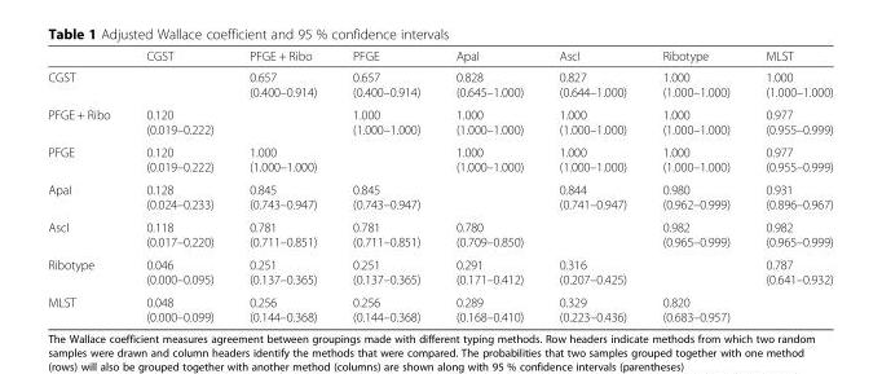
<table><thead><tr><td></td><td>CGST</td><td>PFGE + Ribo</td><td>PFGE</td><td>ApaI</td><td>AscI</td><td>Ribotype</td><td>MLST</td></tr></thead><tbody><tr><td>CGST</td><td></td><td>0.657 (0.400–0.914)</td><td>0.657 (0.400–0.914)</td><td>0.828 (0.645–1.000)</td><td>0.827 (0.644–1.000)</td><td>1.000 (1.000–1.000)</td><td>1.000 (1.000–1.000)</td></tr><tr><td>PFGE + Ribo</td><td>0.120 (0.019–0.222)</td><td></td><td>1.000 (1.000–1.000)</td><td>1.000 (1.000–1.000)</td><td>1.000 (1.000–1.000)</td><td>1.000 (1.000–1.000)</td><td>0.977 (0.955–0.999)</td></tr><tr><td>PFGE</td><td>0.120 (0.019–0.222)</td><td>1.000 (1.000–1.000)</td><td></td><td>1.000 (1.000–1.000)</td><td>1.000 (1.000–1.000)</td><td>1.000 (1.000–1.000)</td><td>0.977 (0.955–0.999)</td></tr><tr><td>ApaI</td><td>0.128 (0.024–0.233)</td><td>0.845 (0.743–0.947)</td><td>0.845 (0.743–0.947)</td><td></td><td>0.844 (0.741–0.947)</td><td>0.980 (0.962–0.999)</td><td>0.931 (0.896–0.967)</td></tr><tr><td>AscI</td><td>0.118 (0.017–0.220)</td><td>0.781 (0.711–0.851)</td><td>0.781 (0.711–0.851)</td><td>0.780 (0.709–0.850)</td><td></td><td>0.982 (0.965–0.999)</td><td>0.982 (0.965–0.999)</td></tr><tr><td>Ribotype</td><td>0.046 (0.000–0.095)</td><td>0.251 (0.137–0.365)</td><td>0.251 (0.137–0.365)</td><td>0.291 (0.171–0.412)</td><td>0.316 (0.207–0.425)</td><td></td><td>0.787 (0.641–0.932)</td></tr><tr><td>MLST</td><td>0.048 (0.000–0.099)</td><td>0.256 (0.144–0.368)</td><td>0.256 (0.144–0.368)</td><td>0.289 (0.168–0.410)</td><td>0.329 (0.223–0.436)</td><td>0.820 (0.683–0.957)</td><td></td></tr></tbody></table>